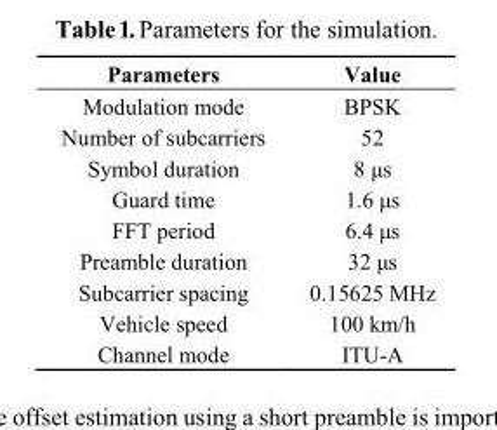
<table><thead><tr><td>Parameters</td><td>Value</td></tr></thead><tbody><tr><td>Modulation mode</td><td>BPSK</td></tr><tr><td>Number of subcarriers</td><td>52</td></tr><tr><td>Symbol duration</td><td>8 μs</td></tr><tr><td>Guard time</td><td>1.6 μs</td></tr><tr><td>FFT period</td><td>6.4 μs</td></tr><tr><td>Preamble duration</td><td>32 μs</td></tr><tr><td>Subcarrier spacing</td><td>0.15625 MHz</td></tr><tr><td>Vehicle speed</td><td>100 km/h</td></tr><tr><td>Channel mode</td><td>ITU-A</td></tr></tbody></table>